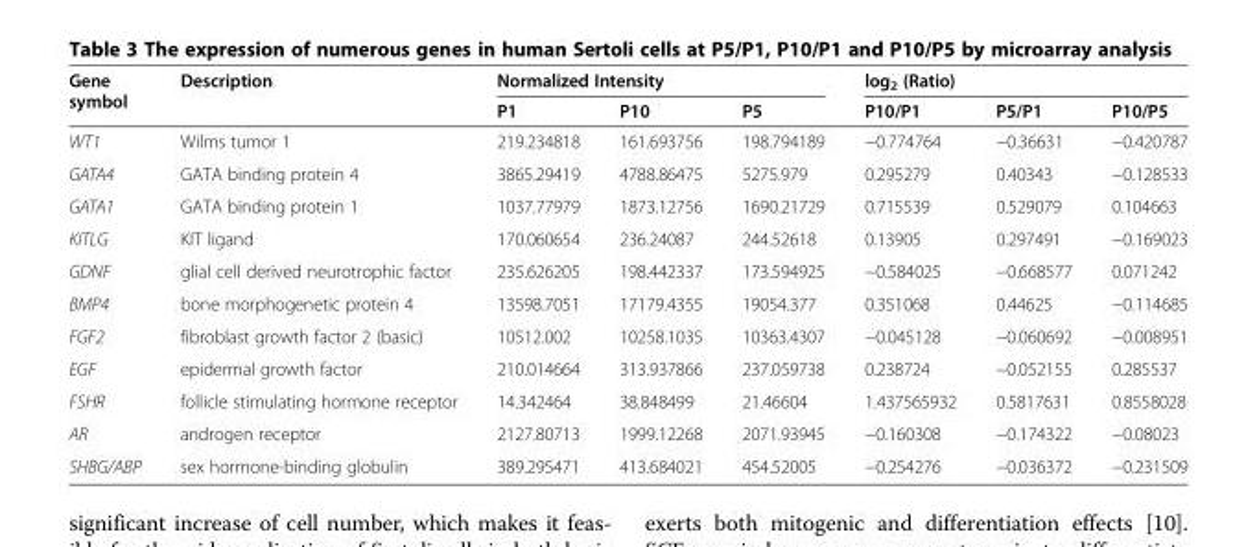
<table><thead><tr><td rowspan="2">Gene symbol</td><td rowspan="2">Description</td><td colspan="3">Normalized Intensity</td><td colspan="3">log<sub>2</sub> (Ratio)</td></tr><tr><td>P1</td><td>P10</td><td>P5</td><td>P10/P1</td><td>P5/P1</td><td>P10/P5</td></tr></thead><tbody><tr><td>WT1</td><td>Wilms tumor 1</td><td>219.234818</td><td>161.693756</td><td>198.794189</td><td>−0.774764</td><td>−0.36631</td><td>−0.420787</td></tr><tr><td>GATA4</td><td>GATA binding protein 4</td><td>3865.29419</td><td>4788.86475</td><td>5275.979</td><td>0.295279</td><td>0.40343</td><td>−0.128533</td></tr><tr><td>GATA1</td><td>GATA binding protein 1</td><td>1037.77979</td><td>1873.12756</td><td>1690.21729</td><td>0.715539</td><td>0.529079</td><td>0.104663</td></tr><tr><td>KITLG</td><td>KIT ligand</td><td>170.060654</td><td>236.24087</td><td>244.52618</td><td>0.13905</td><td>0.297491</td><td>−0.169023</td></tr><tr><td>GDNF</td><td>glial cell derived neurotrophic factor</td><td>235.626205</td><td>198.442337</td><td>173.594925</td><td>−0.584025</td><td>−0.668577</td><td>0.071242</td></tr><tr><td>BMP4</td><td>bone morphogenetic protein 4</td><td>13598.7051</td><td>17179.4355</td><td>19054.377</td><td>0.351068</td><td>0.44625</td><td>−0.114685</td></tr><tr><td>FGF2</td><td>fibroblast growth factor 2 (basic)</td><td>10512.002</td><td>10258.1035</td><td>10363.4307</td><td>−0.045128</td><td>−0.060692</td><td>−0.008951</td></tr><tr><td>EGF</td><td>epidermal growth factor</td><td>210.014664</td><td>313.937866</td><td>237.059738</td><td>0.238724</td><td>−0.052155</td><td>0.285537</td></tr><tr><td>FSHR</td><td>follicle stimulating hormone receptor</td><td>14.342464</td><td>38.848499</td><td>21.46604</td><td>1.437565932</td><td>0.5817631</td><td>0.8558028</td></tr><tr><td>AR</td><td>androgen receptor</td><td>2127.80713</td><td>1999.12268</td><td>2071.93945</td><td>−0.160308</td><td>−0.174322</td><td>−0.08023</td></tr><tr><td>SHBG/ABP</td><td>sex hormone-binding globulin</td><td>389.295471</td><td>413.684021</td><td>454.52005</td><td>−0.254276</td><td>−0.036372</td><td>−0.231509</td></tr></tbody></table>